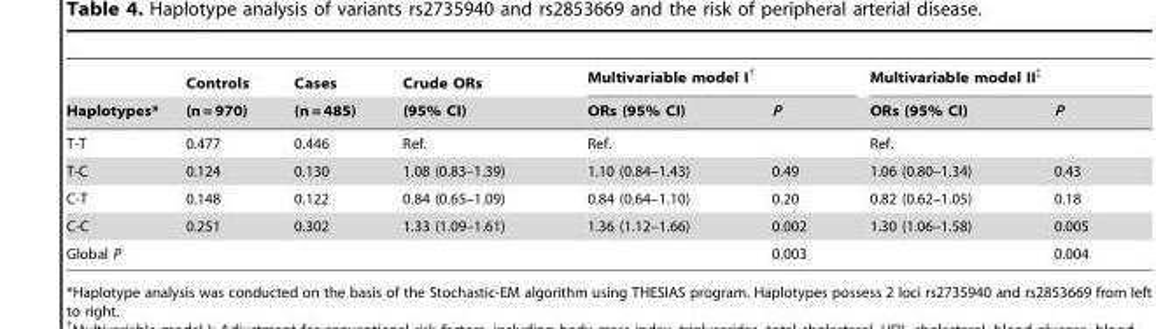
<table><thead><tr><td rowspan="2">Haplotypes*</td><td rowspan="2">Controls (n = 970)</td><td rowspan="2">Cases (n = 485)</td><td rowspan="2">Crude ORs (95% CI)</td><td colspan="2">Multivariable model I†</td><td colspan="2">Multivariable model II‡</td></tr><tr><td>ORs (95% CI)</td><td>P</td><td>ORs (95% CI)</td><td>P</td></tr></thead><tbody><tr><td>T-T</td><td>0.477</td><td>0.446</td><td>Ref.</td><td>Ref.</td><td></td><td>Ref.</td><td></td></tr><tr><td>T-C</td><td>0.124</td><td>0.130</td><td>1.08 (0.83–1.39)</td><td>1.10 (0.84–1.43)</td><td>0.49</td><td>1.06 (0.80–1.34)</td><td>0.43</td></tr><tr><td>C-T</td><td>0.148</td><td>0.122</td><td>0.84 (0.65–1.09)</td><td>0.84 (0.64–1.10)</td><td>0.20</td><td>0.82 (0.62–1.05)</td><td>0.18</td></tr><tr><td>C-C</td><td>0.251</td><td>0.302</td><td>1.33 (1.09–1.61)</td><td>1.36 (1.12–1.66)</td><td>0.002</td><td>1.30 (1.06–1.58)</td><td>0.005</td></tr><tr><td>Global P</td><td></td><td></td><td></td><td></td><td>0.003</td><td></td><td>0.004</td></tr></tbody></table>